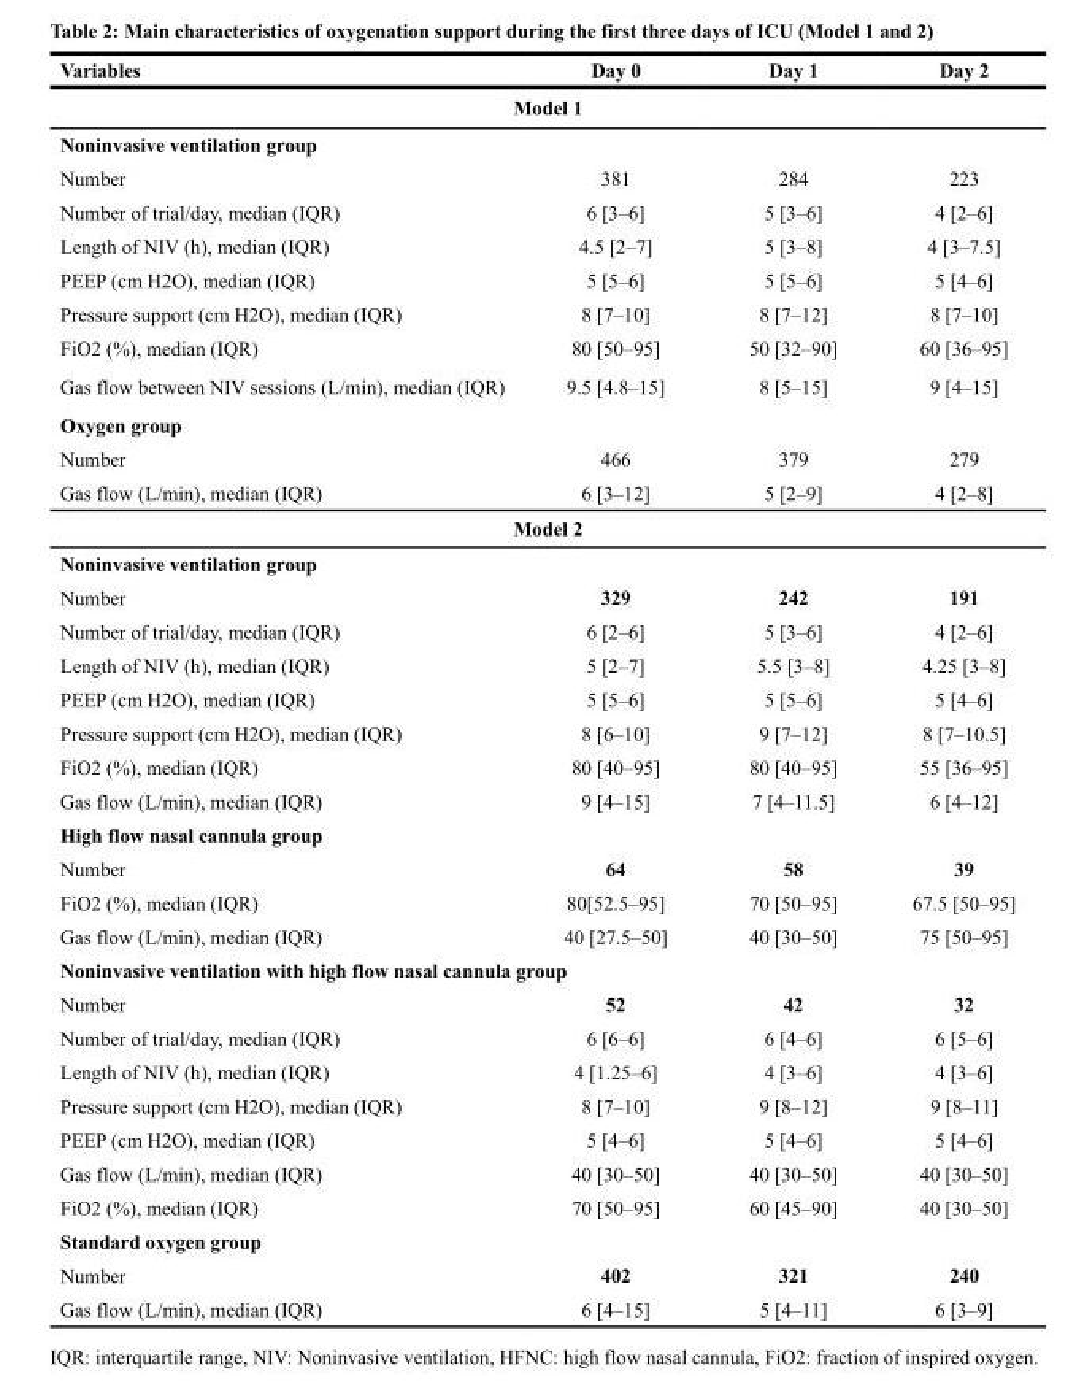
<table><thead><tr><td>Variables</td><td>Day 0</td><td>Day 1</td><td>Day 2</td></tr><tr><td colspan="4">Model 1</td></tr></thead><tbody><tr><td colspan="4">Noninvasive ventilation group</td></tr><tr><td>Number</td><td>381</td><td>284</td><td>223</td></tr><tr><td>Number of trial/day, median (IQR)</td><td>6 [3–6]</td><td>5 [3–6]</td><td>4 [2–6]</td></tr><tr><td>Length of NIV (h), median (IQR)</td><td>4.5 [2–7]</td><td>5 [3–8]</td><td>4 [3–7.5]</td></tr><tr><td>PEEP (cm H2O), median (IQR)</td><td>5 [5–6]</td><td>5 [5–6]</td><td>5 [4–6]</td></tr><tr><td>Pressure support (cm H2O), median (IQR)</td><td>8 [7–10]</td><td>8 [7–12]</td><td>8 [7–10]</td></tr><tr><td>FiO2 (%), median (IQR)</td><td>80 [50–95]</td><td>50 [32–90]</td><td>60 [36–95]</td></tr><tr><td>Gas flow between NIV sessions (L/min), median (IQR)</td><td>9.5 [4.8–15]</td><td>8 [5–15]</td><td>9 [4–15]</td></tr><tr><td colspan="4">Oxygen group</td></tr><tr><td>Number</td><td>466</td><td>379</td><td>279</td></tr><tr><td>Gas flow (L/min), median (IQR)</td><td>6 [3–12]</td><td>5 [2–9]</td><td>4 [2–8]</td></tr><tr><td colspan="4">Model 2</td></tr><tr><td colspan="4">Noninvasive ventilation group</td></tr><tr><td>Number</td><td>329</td><td>242</td><td>191</td></tr><tr><td>Number of trial/day, median (IQR)</td><td>6 [2–6]</td><td>5 [3–6]</td><td>4 [2–6]</td></tr><tr><td>Length of NIV (h), median (IQR)</td><td>5 [2–7]</td><td>5.5 [3–8]</td><td>4.25 [3–8]</td></tr><tr><td>PEEP (cm H2O), median (IQR)</td><td>5 [5–6]</td><td>5 [5–6]</td><td>5 [4–6]</td></tr><tr><td>Pressure support (cm H2O), median (IQR)</td><td>8 [6–10]</td><td>9 [7–12]</td><td>8 [7–10.5]</td></tr><tr><td>FiO2 (%), median (IQR)</td><td>80 [40–95]</td><td>80 [40–95]</td><td>55 [36–95]</td></tr><tr><td>Gas flow (L/min), median (IQR)</td><td>9 [4–15]</td><td>7 [4–11.5]</td><td>6 [4–12]</td></tr><tr><td colspan="4">High flow nasal cannula group</td></tr><tr><td>Number</td><td>64</td><td>58</td><td>39</td></tr><tr><td>FiO2 (%), median (IQR)</td><td>80[52.5–95]</td><td>70 [50–95]</td><td>67.5 [50–95]</td></tr><tr><td>Gas flow (L/min), median (IQR)</td><td>40 [27.5–50]</td><td>40 [30–50]</td><td>75 [50–95]</td></tr><tr><td colspan="4">Noninvasive ventilation with high flow nasal cannula group</td></tr><tr><td>Number</td><td>52</td><td>42</td><td>32</td></tr><tr><td>Number of trial/day, median (IQR)</td><td>6 [6–6]</td><td>6 [4–6]</td><td>6 [5–6]</td></tr><tr><td>Length of NIV (h), median (IQR)</td><td>4 [1.25–6]</td><td>4 [3–6]</td><td>4 [3–6]</td></tr><tr><td>Pressure support (cm H2O), median (IQR)</td><td>8 [7–10]</td><td>9 [8–12]</td><td>9 [8–11]</td></tr><tr><td>PEEP (cm H2O), median (IQR)</td><td>5 [4–6]</td><td>5 [4–6]</td><td>5 [4–6]</td></tr><tr><td>Gas flow (L/min), median (IQR)</td><td>40 [30–50]</td><td>40 [30–50]</td><td>40 [30–50]</td></tr><tr><td>FiO2 (%), median (IQR)</td><td>70 [50–95]</td><td>60 [45–90]</td><td>40 [30–50]</td></tr><tr><td colspan="4">Standard oxygen group</td></tr><tr><td>Number</td><td>402</td><td>321</td><td>240</td></tr><tr><td>Gas flow (L/min), median (IQR)</td><td>6 [4–15]</td><td>5 [4–11]</td><td>6 [3–9]</td></tr></tbody></table>